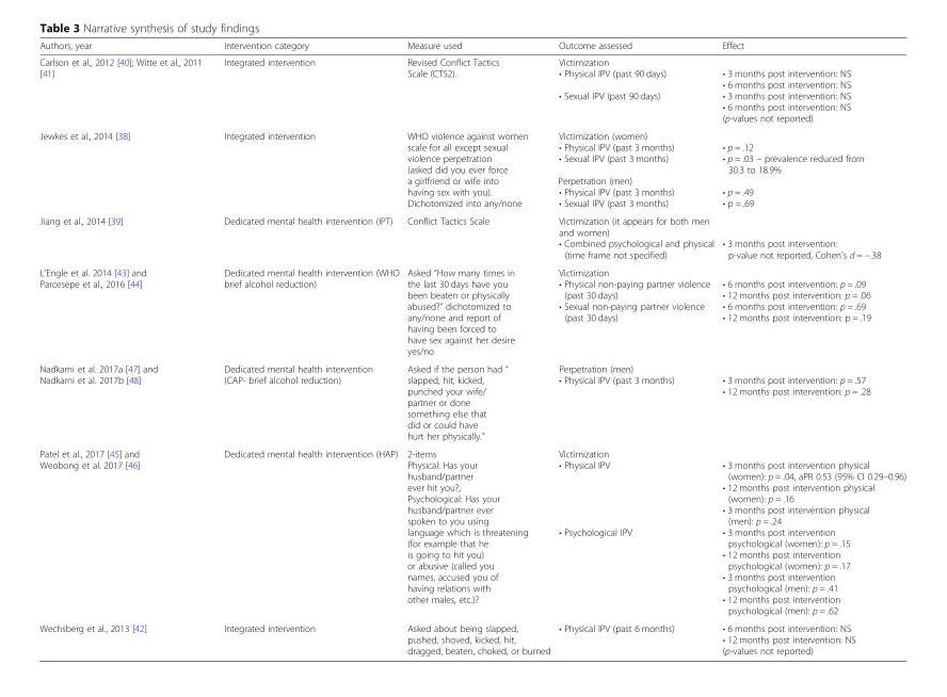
<table><thead><tr><td>Authors, year</td><td>Intervention category</td><td>Measure used</td><td>Outcome assessed</td><td>Effect</td></tr></thead><tbody><tr><td>Carlson et al., 2012 [40]; Witte et al., 2011 [41]</td><td>Integrated intervention</td><td>Revised Conflict Tactics Scale (CTS2).</td><td>Victimization • Physical IPV (past 90 days) • Sexual IPV (past 90 days)</td><td>• 3 months post intervention: NS • 6 months post intervention: NS • 3 months post intervention: NS • 6 months post intervention: NS (p-values not reported)</td></tr><tr><td>Jewkes et al., 2014 [38]</td><td>Integrated intervention</td><td>WHO violence against women scale for all except sexual violence perpetration (asked did you ever force a girlfriend or wife into having sex with you). Dichotomized into any/none</td><td>Victimization (women) • Physical IPV (past 3 months) • Sexual IPV (past 3 months) Perpetration (men) • Physical IPV (past 3 months) • Sexual IPV (past 3 months)</td><td>• p = .12 • p = .03 – prevalence reduced from 30.3 to 18.9% • p = .49 • p = .69</td></tr><tr><td>Jiang et al., 2014 [39]</td><td>Dedicated mental health intervention (IPT)</td><td>Conflict Tactics Scale</td><td>Victimization (it appears for both men and women) • Combined psychological and physical (time frame not specified)</td><td>• 3 months post intervention: p-value not reported, Cohen’s d = −.38</td></tr><tr><td>L’Engle et al. 2014 [43] and Parcesepe et al., 2016 [44]</td><td>Dedicated mental health intervention (WHO brief alcohol reduction)</td><td>Asked “How many times in the last 30 days have you been beaten or physically abused?” dichotomized to any/none and report of having been forced to have sex against her desire yes/no</td><td>Victimization • Physical non-paying partner violence (past 30 days) • Sexual non-paying partner violence (past 30 days)</td><td>• 6 months post intervention: p = .09 • 12 months post intervention: p = .06 • 6 months post intervention: p = .69 • 12 months post intervention: p = .19</td></tr><tr><td>Nadkarni et al. 2017a [47] and Nadkarni et al. 2017b [48]</td><td>Dedicated mental health intervention (CAP- brief alcohol reduction)</td><td>Asked if the person had “ slapped, hit, kicked, punched your wife/ partner or done something else that did or could have hurt her physically.”</td><td>Perpetration (men) • Physical IPV (past 3 months)</td><td>• 3 months post intervention: p = .57 • 12 months post intervention: p = .28</td></tr><tr><td>Patel et al., 2017 [45] and Weobong et al. 2017 [46]</td><td>Dedicated mental health intervention (HAP)</td><td>2-items Physical: Has your husband/partner ever hit you?; Psychological: Has your husband/partner ever spoken to you using language which is threatening (for example that he is going to hit you) or abusive (called you names, accused you of having relations with other males, etc.)?</td><td>Victimization • Physical IPV • Psychological IPV</td><td>• 3 months post intervention physical (women): p = .04, aPR 0.53 (95% CI 0.29–0.96) • 12 months post intervention physical (women): p = .16 • 3 months post intervention physical (men): p = .24 • 3 months post intervention psychological (women): p = .15 • 12 months post intervention psychological (women): p = .17 • 3 months post intervention psychological (men): p = .41 • 12 months post intervention psychological (men): p = .62</td></tr><tr><td>Wechsberg et al., 2013 [42]</td><td>Integrated intervention</td><td>Asked about being slapped, pushed, shoved, kicked, hit, dragged, beaten, choked, or burned</td><td>• Physical IPV (past 6 months)</td><td>• 6 months post intervention: NS • 12 months post intervention: NS (p-values not reported)</td></tr></tbody></table>